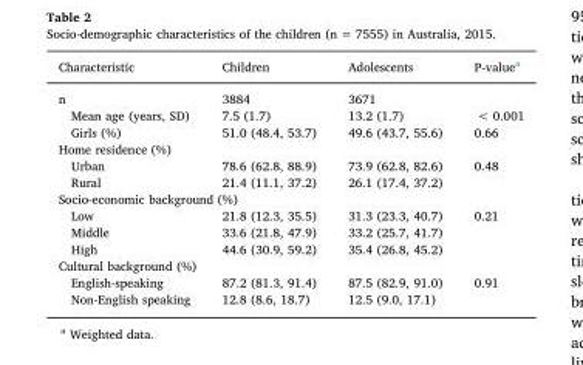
<table><thead><tr><td>Characteristic</td><td>Children</td><td>Adolescents</td><td>P-value<sup>a</sup></td></tr></thead><tbody><tr><td>n</td><td>3884</td><td>3671</td><td></td></tr><tr><td>Mean age (years, SD)</td><td>7.5 (1.7)</td><td>13.2 (1.7)</td><td>&lt; 0.001</td></tr><tr><td>Girls (%)</td><td>51.0 (48.4, 53.7)</td><td>49.6 (43.7, 55.6)</td><td>0.66</td></tr><tr><td colspan="4">Home residence (%)</td></tr><tr><td>Urban</td><td>78.6 (62.8, 88.9)</td><td>73.9 (62.8, 82.6)</td><td rowspan="2">0.48</td></tr><tr><td>Rural</td><td>21.4 (11.1, 37.2)</td><td>26.1 (17.4, 37.2)</td></tr><tr><td colspan="4">Socio-economic background (%)</td></tr><tr><td>Low</td><td>21.8 (12.3, 35.5)</td><td>31.3 (23.3, 40.7)</td><td rowspan="3">0.21</td></tr><tr><td>Middle</td><td>33.6 (21.8, 47.9)</td><td>33.2 (25.7, 41.7)</td></tr><tr><td>High</td><td>44.6 (30.9, 59.2)</td><td>35.4 (26.8, 45.2)</td></tr><tr><td colspan="4">Cultural background (%)</td></tr><tr><td>English-speaking</td><td>87.2 (81.3, 91.4)</td><td>87.5 (82.9, 91.0)</td><td rowspan="2">0.91</td></tr><tr><td>Non-English speaking</td><td>12.8 (8.6, 18.7)</td><td>12.5 (9.0, 17.1)</td></tr></tbody></table>